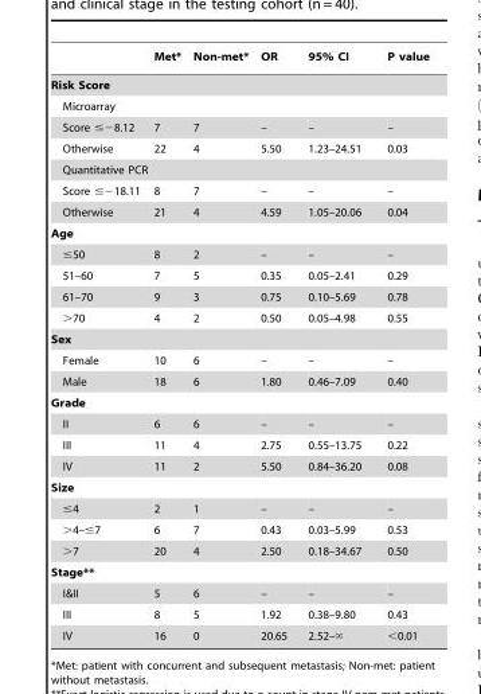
<table><thead><tr><td></td><td>Met*</td><td>Non-met*</td><td>OR</td><td>95% CI</td><td>P value</td></tr></thead><tbody><tr><td colspan="6">Risk Score</td></tr><tr><td colspan="6">Microarray</td></tr><tr><td>Score ≤−8.12</td><td>7</td><td>7</td><td>–</td><td>–</td><td>–</td></tr><tr><td>Otherwise</td><td>22</td><td>4</td><td>5.50</td><td>1.23–24.51</td><td>0.03</td></tr><tr><td colspan="6">Quantitative PCR</td></tr><tr><td>Score ≤−18.11</td><td>8</td><td>7</td><td>–</td><td>–</td><td>–</td></tr><tr><td>Otherwise</td><td>21</td><td>4</td><td>4.59</td><td>1.05–20.06</td><td>0.04</td></tr><tr><td colspan="6">Age</td></tr><tr><td>≤50</td><td>8</td><td>2</td><td>–</td><td>–</td><td>–</td></tr><tr><td>51–60</td><td>7</td><td>5</td><td>0.35</td><td>0.05–2.41</td><td>0.29</td></tr><tr><td>61–70</td><td>9</td><td>3</td><td>0.75</td><td>0.10–5.69</td><td>0.78</td></tr><tr><td>&gt;70</td><td>4</td><td>2</td><td>0.50</td><td>0.05–4.98</td><td>0.55</td></tr><tr><td colspan="6">Sex</td></tr><tr><td>Female</td><td>10</td><td>6</td><td>–</td><td>–</td><td>–</td></tr><tr><td>Male</td><td>18</td><td>6</td><td>1.80</td><td>0.46–7.09</td><td>0.40</td></tr><tr><td colspan="6">Grade</td></tr><tr><td>II</td><td>6</td><td>6</td><td>–</td><td>–</td><td>–</td></tr><tr><td>III</td><td>11</td><td>4</td><td>2.75</td><td>0.55–13.75</td><td>0.22</td></tr><tr><td>IV</td><td>11</td><td>2</td><td>5.50</td><td>0.84–36.20</td><td>0.08</td></tr><tr><td colspan="6">Size</td></tr><tr><td>≤4</td><td>2</td><td>1</td><td>–</td><td>–</td><td>–</td></tr><tr><td>&gt;4–≤7</td><td>6</td><td>7</td><td>0.43</td><td>0.03–5.99</td><td>0.53</td></tr><tr><td>&gt;7</td><td>20</td><td>4</td><td>2.50</td><td>0.18–34.67</td><td>0.50</td></tr><tr><td colspan="6">Stage**</td></tr><tr><td>I&amp;II</td><td>5</td><td>6</td><td>–</td><td>–</td><td>–</td></tr><tr><td>III</td><td>8</td><td>5</td><td>1.92</td><td>0.38–9.80</td><td>0.43</td></tr><tr><td>IV</td><td>16</td><td>0</td><td>20.65</td><td>2.52–‘</td><td>&lt;0.01</td></tr></tbody></table>